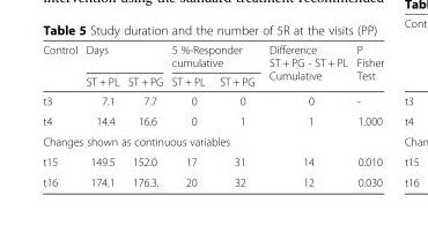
<table><thead><tr><td rowspan="2">Control</td><td colspan="2">Days</td><td colspan="2">5 %-Responder cumulative</td><td rowspan="2">Difference ST + PG - ST + PL Cumulative</td><td rowspan="2">P Fisher Test</td></tr><tr><td>ST + PL</td><td>ST + PG</td><td>ST + PL</td><td>ST + PG</td></tr></thead><tbody><tr><td>t3</td><td>7.1</td><td>7.7</td><td>0</td><td>0</td><td>0</td><td>-</td></tr><tr><td>t4</td><td>14.4</td><td>16.6</td><td>0</td><td>1</td><td>1</td><td>1.000</td></tr><tr><td colspan="7">Changes shown as continuous variables</td></tr><tr><td>t15</td><td>149.5</td><td>152.0</td><td>17</td><td>31</td><td>14</td><td>0.010</td></tr><tr><td>t16</td><td>174.1</td><td>176.3.</td><td>20</td><td>32</td><td>12</td><td>0.030</td></tr></tbody></table>